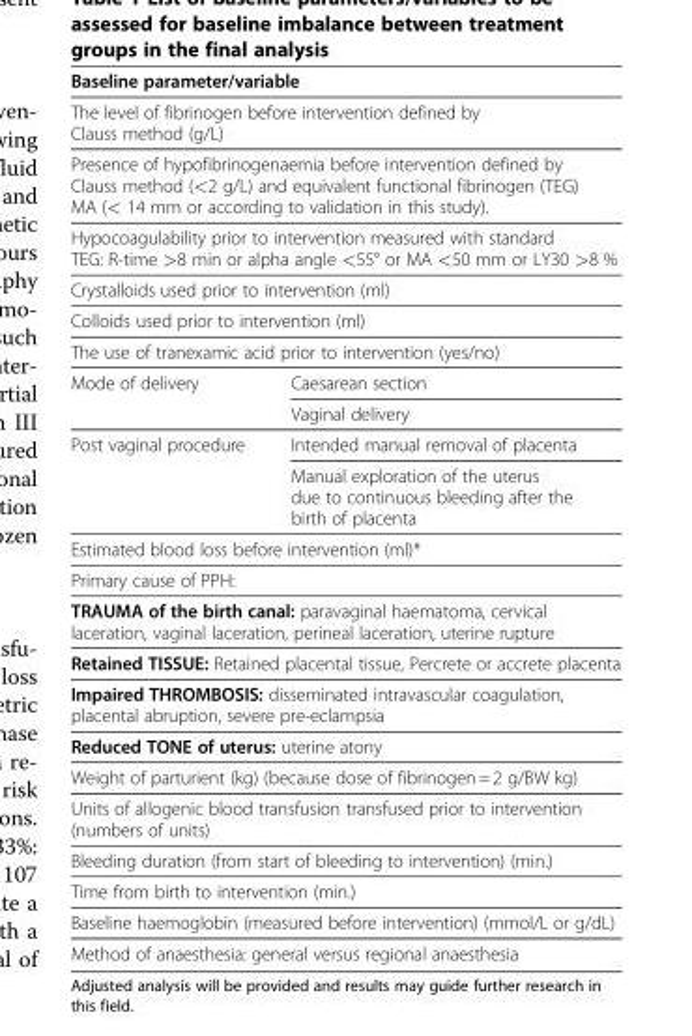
<table><thead><tr><td colspan="2">Baseline parameter/variable</td></tr></thead><tbody><tr><td colspan="2">The level of fibrinogen before intervention defined by Clauss method (g/L)</td></tr><tr><td colspan="2">Presence of hypofibrinogenaemia before intervention defined by Clauss method (&lt;2 g/L) and equivalent functional fibrinogen (TEG) MA (&lt; 14 mm or according to validation in this study).</td></tr><tr><td colspan="2">Hypocoagulability prior to intervention measured with standard TEG: R-time &gt;8 min or alpha angle &lt;55° or MA &lt;50 mm or LY30 &gt;8 %</td></tr><tr><td colspan="2">Crystalloids used prior to intervention (ml)</td></tr><tr><td colspan="2">Colloids used prior to intervention (ml)</td></tr><tr><td colspan="2">The use of tranexamic acid prior to intervention (yes/no)</td></tr><tr><td rowspan="2">Mode of delivery</td><td>Caesarean section</td></tr><tr><td>Vaginal delivery</td></tr><tr><td rowspan="2">Post vaginal procedure</td><td>Intended manual removal of placenta</td></tr><tr><td>Manual exploration of the uterus due to continuous bleeding after the birth of placenta</td></tr><tr><td colspan="2">Estimated blood loss before intervention (ml)*</td></tr><tr><td colspan="2">Primary cause of PPH:</td></tr><tr><td colspan="2">TRAUMA of the birth canal: paravaginal haematoma, cervical laceration, vaginal laceration, perineal laceration, uterine rupture</td></tr><tr><td colspan="2">Retained TISSUE: Retained placental tissue, Percrete or accrete placenta</td></tr><tr><td colspan="2">Impaired THROMBOSIS: disseminated intravascular coagulation, placental abruption, severe pre-eclampsia</td></tr><tr><td colspan="2">Reduced TONE of uterus: uterine atony</td></tr><tr><td colspan="2">Weight of parturient (kg) (because dose of fibrinogen = 2 g/BW kg)</td></tr><tr><td colspan="2">Units of allogenic blood transfusion transfused prior to intervention (numbers of units)</td></tr><tr><td colspan="2">Bleeding duration (from start of bleeding to intervention) (min.)</td></tr><tr><td colspan="2">Time from birth to intervention (min.)</td></tr><tr><td colspan="2">Baseline haemoglobin (measured before intervention) (mmol/L or g/dL)</td></tr><tr><td colspan="2">Method of anaesthesia: general versus regional anaesthesia</td></tr></tbody></table>